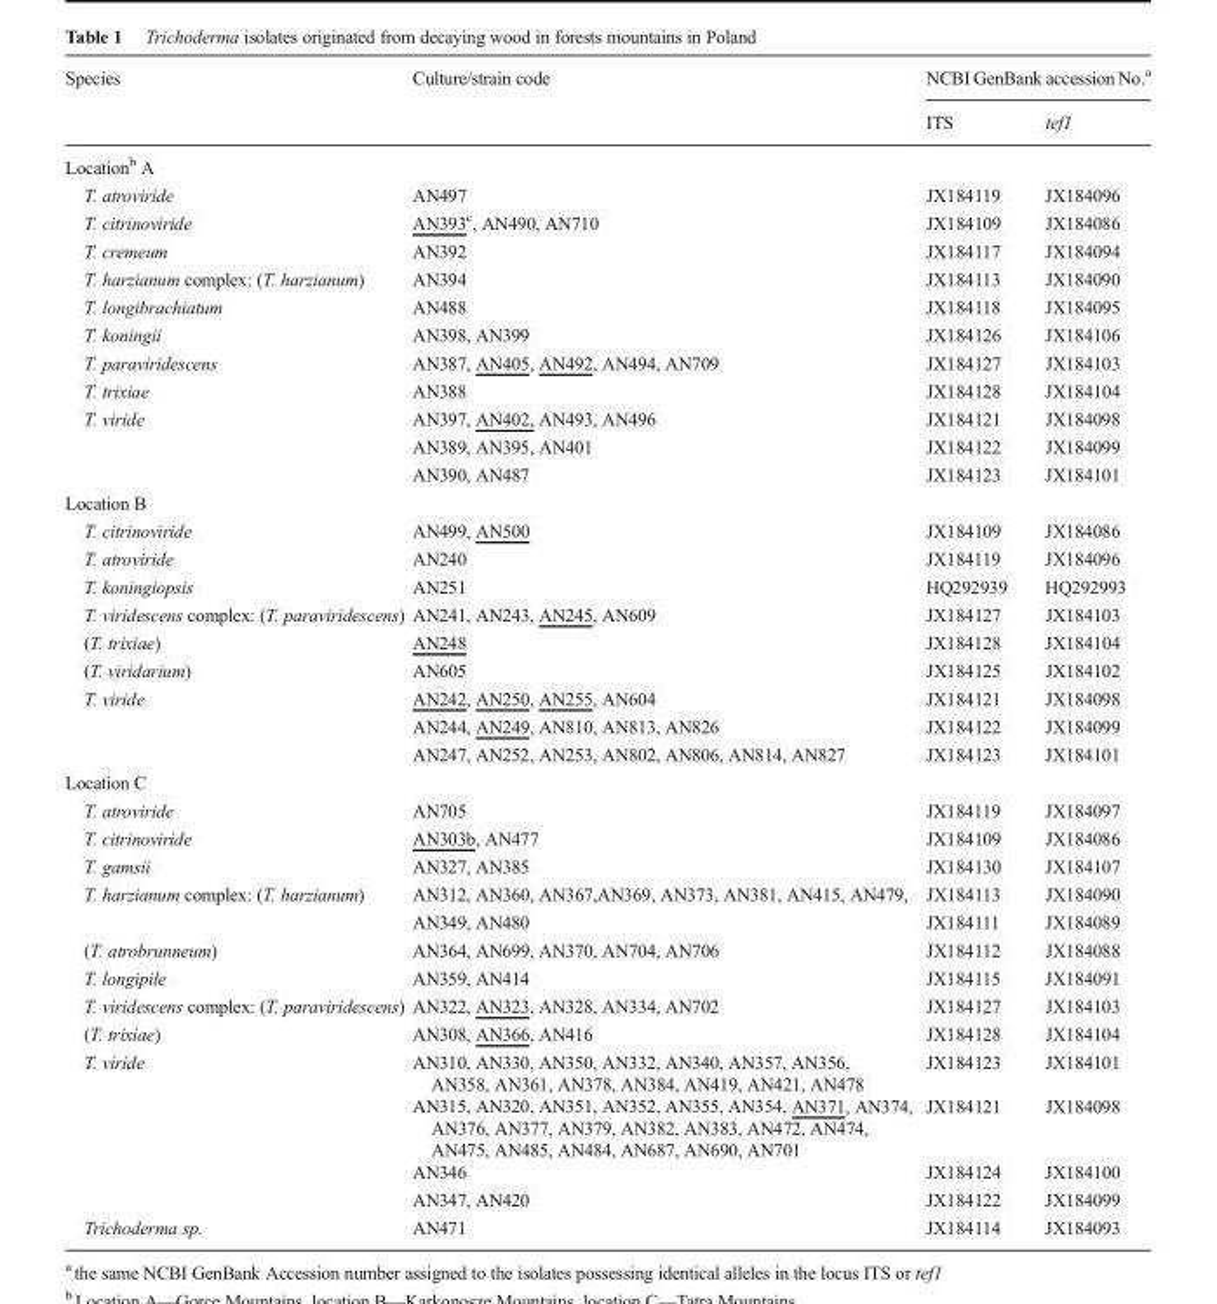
<table><thead><tr><td rowspan="2">Species</td><td rowspan="2">Culture/strain code</td><td colspan="2">NCBI GenBank accession No.<sup>a</sup></td></tr><tr><td>ITS</td><td>tef1</td></tr></thead><tbody><tr><td colspan="4">Location<sup>b</sup> A</td></tr><tr><td>T. atroviride</td><td>AN497</td><td>JX184119</td><td>JX184096</td></tr><tr><td>T. citrinoviride</td><td>AN393<sup>c</sup>, AN490, AN710</td><td>JX184109</td><td>JX184086</td></tr><tr><td>T. cremeum</td><td>AN392</td><td>JX184117</td><td>JX184094</td></tr><tr><td>T. harzianum complex: (T. harzianum)</td><td>AN394</td><td>JX184113</td><td>JX184090</td></tr><tr><td>T. longibrachiatum</td><td>AN488</td><td>JX184118</td><td>JX184095</td></tr><tr><td>T. koningii</td><td>AN398, AN399</td><td>JX184126</td><td>JX184106</td></tr><tr><td>T. paraviridescens</td><td>AN387, AN405, AN492, AN494, AN709</td><td>JX184127</td><td>JX184103</td></tr><tr><td>T. trixiae</td><td>AN388</td><td>JX184128</td><td>JX184104</td></tr><tr><td rowspan="3">T. viride</td><td>AN397, AN402, AN493, AN496</td><td>JX184121</td><td>JX184098</td></tr><tr><td>AN389, AN395, AN401</td><td>JX184122</td><td>JX184099</td></tr><tr><td>AN390, AN487</td><td>JX184123</td><td>JX184101</td></tr><tr><td colspan="4">Location B</td></tr><tr><td>T. citrinoviride</td><td>AN499, AN500</td><td>JX184109</td><td>JX184086</td></tr><tr><td>T. atroviride</td><td>AN240</td><td>JX184119</td><td>JX184096</td></tr><tr><td>T. koningiopsis</td><td>AN251</td><td>HQ292939</td><td>HQ292993</td></tr><tr><td>T. viridescens complex: (T. paraviridescens)</td><td>AN241, AN243, AN245, AN609</td><td>JX184127</td><td>JX184103</td></tr><tr><td>(T. trixiae)</td><td>AN248</td><td>JX184128</td><td>JX184104</td></tr><tr><td>(T. viridarium)</td><td>AN605</td><td>JX184125</td><td>JX184102</td></tr><tr><td rowspan="3">T. viride</td><td>AN242, AN250, AN255, AN604</td><td>JX184121</td><td>JX184098</td></tr><tr><td>AN244, AN249, AN810, AN813, AN826</td><td>JX184122</td><td>JX184099</td></tr><tr><td>AN247, AN252, AN253, AN802, AN806, AN814, AN827</td><td>JX184123</td><td>JX184101</td></tr><tr><td colspan="4">Location C</td></tr><tr><td>T. atroviride</td><td>AN705</td><td>JX184119</td><td>JX184097</td></tr><tr><td>T. citrinoviride</td><td>AN303b, AN477</td><td>JX184109</td><td>JX184086</td></tr><tr><td>T. gamsii</td><td>AN327, AN385</td><td>JX184130</td><td>JX184107</td></tr><tr><td rowspan="2">T. harzianum complex: (T. harzianum)</td><td>AN312, AN360, AN367,AN369, AN373, AN381, AN415, AN479,</td><td>JX184113</td><td>JX184090</td></tr><tr><td>AN349, AN480</td><td>JX184111</td><td>JX184089</td></tr><tr><td>(T. atrobrunneum)</td><td>AN364, AN699, AN370, AN704, AN706</td><td>JX184112</td><td>JX184088</td></tr><tr><td>T. longipile</td><td>AN359, AN414</td><td>JX184115</td><td>JX184091</td></tr><tr><td>T. viridescens complex: (T. paraviridescens)</td><td>AN322, AN323, AN328, AN334, AN702</td><td>JX184127</td><td>JX184103</td></tr><tr><td>(T. trixiae)</td><td>AN308, AN366, AN416</td><td>JX184128</td><td>JX184104</td></tr><tr><td rowspan="4">T. viride</td><td>AN310, AN330, AN350, AN332, AN340, AN357, AN356, AN358, AN361, AN378, AN384, AN419, AN421, AN478</td><td>JX184123</td><td>JX184101</td></tr><tr><td>AN315, AN320, AN351, AN352, AN355, AN354, AN371, AN374, AN376, AN377, AN379, AN382, AN383, AN472, AN474, AN475, AN485, AN484, AN687, AN690, AN701</td><td>JX184121</td><td>JX184098</td></tr><tr><td>AN346</td><td>JX184124</td><td>JX184100</td></tr><tr><td>AN347, AN420</td><td>JX184122</td><td>JX184099</td></tr><tr><td>Trichoderma sp.</td><td>AN471</td><td>JX184114</td><td>JX184093</td></tr></tbody></table>